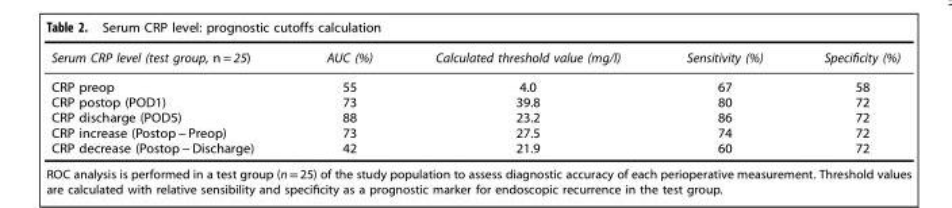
<table><thead><tr><td>Serum CRP level (test group, n = 25)</td><td>AUC (%)</td><td>Calculated threshold value (mg/l)</td><td>Sensitivity (%)</td><td>Specificity (%)</td></tr></thead><tbody><tr><td>CRP preop</td><td>55</td><td>4.0</td><td>67</td><td>58</td></tr><tr><td>CRP postop (POD1)</td><td>73</td><td>39.8</td><td>80</td><td>72</td></tr><tr><td>CRP discharge (POD5)</td><td>88</td><td>23.2</td><td>86</td><td>72</td></tr><tr><td>CRP increase (Postop − Preop)</td><td>73</td><td>27.5</td><td>74</td><td>72</td></tr><tr><td>CRP decrease (Postop − Discharge)</td><td>42</td><td>21.9</td><td>60</td><td>72</td></tr></tbody></table>